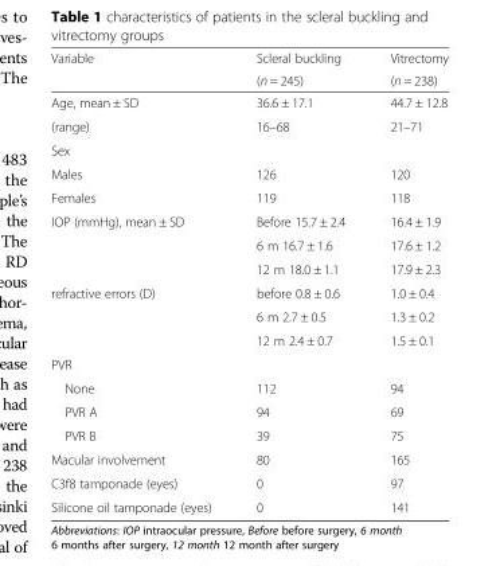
<table><thead><tr><td rowspan="2">Variable</td><td rowspan="2">Scleral buckling (n = 245)</td><td rowspan="2">Vitrectomy (n = 238)</td></tr><tr></tr></thead><tbody><tr><td>Age, mean ± SD</td><td>36.6 ± 17.1</td><td>44.7 ± 12.8</td></tr><tr><td>(range)</td><td>16–68</td><td>21–71</td></tr><tr><td colspan="3">Sex</td></tr><tr><td>Males</td><td>126</td><td>120</td></tr><tr><td>Females</td><td>119</td><td>118</td></tr><tr><td rowspan="3">IOP (mmHg), mean ± SD</td><td>Before 15.7 ± 2.4</td><td>16.4 ± 1.9</td></tr><tr><td>6 m 16.7 ± 1.6</td><td>17.6 ± 1.2</td></tr><tr><td>12 m 18.0 ± 1.1</td><td>17.9 ± 2.3</td></tr><tr><td rowspan="3">refractive errors (D)</td><td>before 0.8 ± 0.6</td><td>1.0 ± 0.4</td></tr><tr><td>6 m 2.7 ± 0.5</td><td>1.3 ± 0.2</td></tr><tr><td>12 m 2.4 ± 0.7</td><td>1.5 ± 0.1</td></tr><tr><td colspan="3">PVR</td></tr><tr><td>None</td><td>112</td><td>94</td></tr><tr><td>PVR A</td><td>94</td><td>69</td></tr><tr><td>PVR B</td><td>39</td><td>75</td></tr><tr><td>Macular involvement</td><td>80</td><td>165</td></tr><tr><td>C3f8 tamponade (eyes)</td><td>0</td><td>97</td></tr><tr><td>Silicone oil tamponade (eyes)</td><td>0</td><td>141</td></tr></tbody></table>